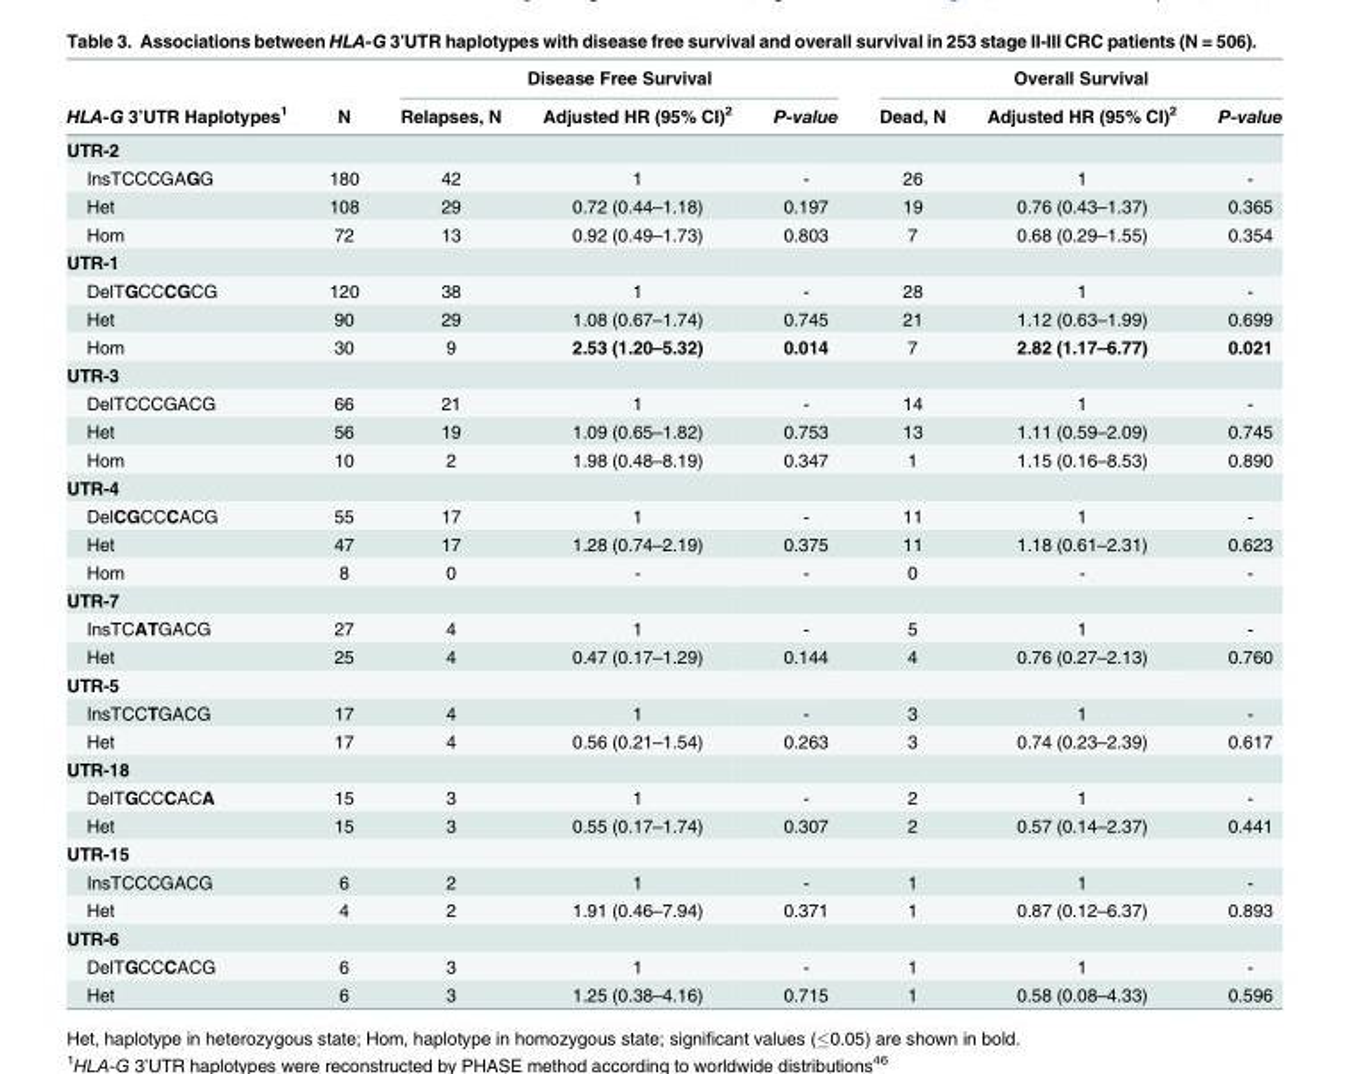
<table><thead><tr><td rowspan="2">HLA-G 3’UTR Haplotypes<sup>1</sup></td><td rowspan="2">N</td><td colspan="3">Disease Free Survival</td><td colspan="3">Overall Survival</td></tr><tr><td>Relapses, N</td><td>Adjusted HR (95% CI)<sup>2</sup></td><td>P-value</td><td>Dead, N</td><td>Adjusted HR (95% CI)<sup>2</sup></td><td>P-value</td></tr></thead><tbody><tr><td colspan="8">UTR-2</td></tr><tr><td>InsTCCCGAGG</td><td>180</td><td>42</td><td>1</td><td>-</td><td>26</td><td>1</td><td>-</td></tr><tr><td>Het</td><td>108</td><td>29</td><td>0.72 (0.44–1.18)</td><td>0.197</td><td>19</td><td>0.76 (0.43–1.37)</td><td>0.365</td></tr><tr><td>Hom</td><td>72</td><td>13</td><td>0.92 (0.49–1.73)</td><td>0.803</td><td>7</td><td>0.68 (0.29–1.55)</td><td>0.354</td></tr><tr><td colspan="8">UTR-1</td></tr><tr><td>DelTGCCCGCG</td><td>120</td><td>38</td><td>1</td><td>-</td><td>28</td><td>1</td><td>-</td></tr><tr><td>Het</td><td>90</td><td>29</td><td>1.08 (0.67–1.74)</td><td>0.745</td><td>21</td><td>1.12 (0.63–1.99)</td><td>0.699</td></tr><tr><td>Hom</td><td>30</td><td>9</td><td>2.53 (1.20–5.32)</td><td>0.014</td><td>7</td><td>2.82 (1.17–6.77)</td><td>0.021</td></tr><tr><td colspan="8">UTR-3</td></tr><tr><td>DelTCCCGACG</td><td>66</td><td>21</td><td>1</td><td>-</td><td>14</td><td>1</td><td>-</td></tr><tr><td>Het</td><td>56</td><td>19</td><td>1.09 (0.65–1.82)</td><td>0.753</td><td>13</td><td>1.11 (0.59–2.09)</td><td>0.745</td></tr><tr><td>Hom</td><td>10</td><td>2</td><td>1.98 (0.48–8.19)</td><td>0.347</td><td>1</td><td>1.15 (0.16–8.53)</td><td>0.890</td></tr><tr><td colspan="8">UTR-4</td></tr><tr><td>DelCGCCCACG</td><td>55</td><td>17</td><td>1</td><td>-</td><td>11</td><td>1</td><td>-</td></tr><tr><td>Het</td><td>47</td><td>17</td><td>1.28 (0.74–2.19)</td><td>0.375</td><td>11</td><td>1.18 (0.61–2.31)</td><td>0.623</td></tr><tr><td>Hom</td><td>8</td><td>0</td><td>-</td><td>-</td><td>0</td><td>-</td><td>-</td></tr><tr><td colspan="8">UTR-7</td></tr><tr><td>InsTCATGACG</td><td>27</td><td>4</td><td>1</td><td>-</td><td>5</td><td>1</td><td>-</td></tr><tr><td>Het</td><td>25</td><td>4</td><td>0.47 (0.17–1.29)</td><td>0.144</td><td>4</td><td>0.76 (0.27–2.13)</td><td>0.760</td></tr><tr><td colspan="8">UTR-5</td></tr><tr><td>InsTCCTGACG</td><td>17</td><td>4</td><td>1</td><td>-</td><td>3</td><td>1</td><td>-</td></tr><tr><td>Het</td><td>17</td><td>4</td><td>0.56 (0.21–1.54)</td><td>0.263</td><td>3</td><td>0.74 (0.23–2.39)</td><td>0.617</td></tr><tr><td colspan="8">UTR-18</td></tr><tr><td>DelTGCCCACA</td><td>15</td><td>3</td><td>1</td><td>-</td><td>2</td><td>1</td><td>-</td></tr><tr><td>Het</td><td>15</td><td>3</td><td>0.55 (0.17–1.74)</td><td>0.307</td><td>2</td><td>0.57 (0.14–2.37)</td><td>0.441</td></tr><tr><td colspan="8">UTR-15</td></tr><tr><td>InsTCCCGACG</td><td>6</td><td>2</td><td>1</td><td>-</td><td>1</td><td>1</td><td>-</td></tr><tr><td>Het</td><td>4</td><td>2</td><td>1.91 (0.46–7.94)</td><td>0.371</td><td>1</td><td>0.87 (0.12–6.37)</td><td>0.893</td></tr><tr><td colspan="8">UTR-6</td></tr><tr><td>DelTGCCCACG</td><td>6</td><td>3</td><td>1</td><td>-</td><td>1</td><td>1</td><td>-</td></tr><tr><td>Het</td><td>6</td><td>3</td><td>1.25 (0.38–4.16)</td><td>0.715</td><td>1</td><td>0.58 (0.08–4.33)</td><td>0.596</td></tr></tbody></table>